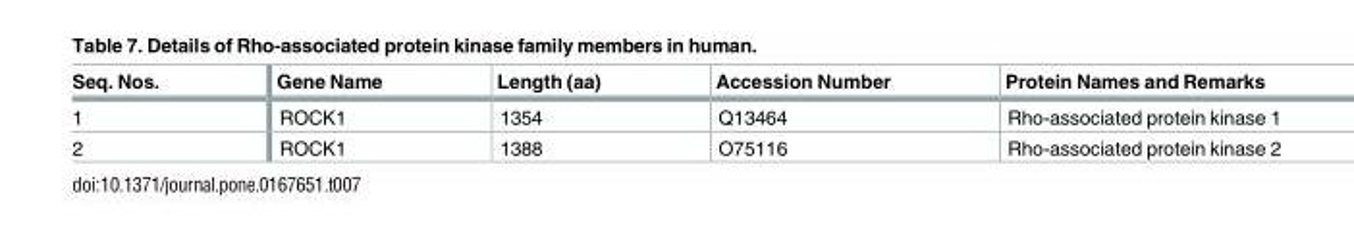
<table><thead><tr><td>Seq. Nos.</td><td>Gene Name</td><td>Length (aa)</td><td>Accession Number</td><td>Protein Names and Remarks</td></tr></thead><tbody><tr><td>1</td><td>ROCK1</td><td>1354</td><td>Q13464</td><td>Rho-associated protein kinase 1</td></tr><tr><td>2</td><td>ROCK1</td><td>1388</td><td>O75116</td><td>Rho-associated protein kinase 2</td></tr></tbody></table>